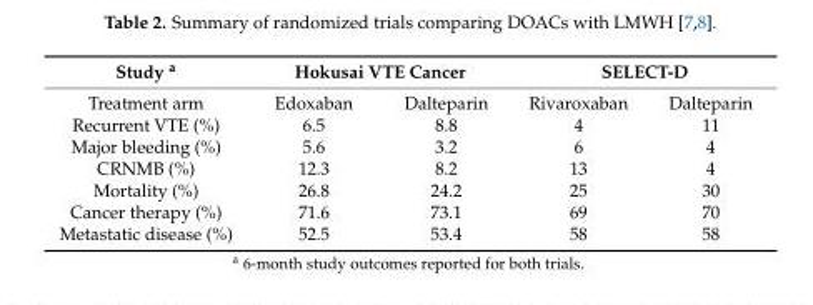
<table><thead><tr><td rowspan="2">Study <sup>a</sup> Treatment arm</td><td colspan="2">Hokusai VTE Cancer</td><td colspan="2">SELECT-D</td></tr><tr><td>Edoxaban</td><td>Dalteparin</td><td>Rivaroxaban</td><td>Dalteparin</td></tr></thead><tbody><tr><td>Recurrent VTE (%)</td><td>6.5</td><td>8.8</td><td>4</td><td>11</td></tr><tr><td>Major bleeding (%)</td><td>5.6</td><td>3.2</td><td>6</td><td>4</td></tr><tr><td>CRNMB (%)</td><td>12.3</td><td>8.2</td><td>13</td><td>4</td></tr><tr><td>Mortality (%)</td><td>26.8</td><td>24.2</td><td>25</td><td>30</td></tr><tr><td>Cancer therapy (%)</td><td>71.6</td><td>73.1</td><td>69</td><td>70</td></tr><tr><td>Metastatic disease (%)</td><td>52.5</td><td>53.4</td><td>58</td><td>58</td></tr></tbody></table>